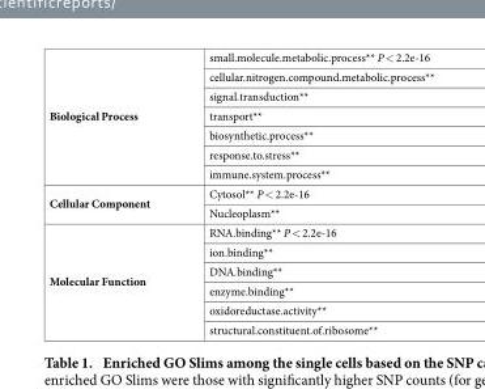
<table><tbody><tr><td rowspan="7">Biological Process</td><td>small.molecule.metabolic.process** P &lt; 2.2e-16</td></tr><tr><td>cellular.nitrogen.compound.metabolic.process**</td></tr><tr><td>signal.transduction**</td></tr><tr><td>transport**</td></tr><tr><td>biosynthetic.process**</td></tr><tr><td>response.to.stress**</td></tr><tr><td>immune.system.process**</td></tr><tr><td rowspan="2">Cellular Component</td><td>Cytosol** P &lt; 2.2e-16</td></tr><tr><td>Nucleoplasm**</td></tr><tr><td rowspan="6">Molecular Function</td><td>RNA.binding** P &lt; 2.2e-16</td></tr><tr><td>ion.binding**</td></tr><tr><td>DNA.binding**</td></tr><tr><td>enzyme.binding**</td></tr><tr><td>oxidoreductase.activity**</td></tr><tr><td>structural.constituent.of.ribosome**</td></tr></tbody></table>